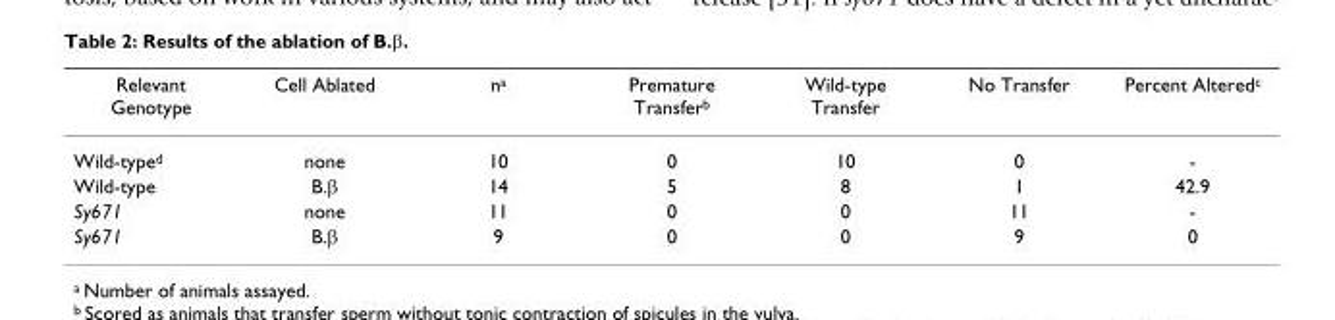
<table><thead><tr><td>Relevant Genotype</td><td>Cell Ablated</td><td>n<sup>a</sup></td><td>Premature Transfer<sup>b</sup></td><td>Wild-type Transfer</td><td>No Transfer</td><td>Percent Altered<sup>c</sup></td></tr></thead><tbody><tr><td>Wild-type<sup>d</sup></td><td>none</td><td>10</td><td>0</td><td>10</td><td>0</td><td>-</td></tr><tr><td>Wild-type</td><td>B.β</td><td>14</td><td>5</td><td>8</td><td>1</td><td>42.9</td></tr><tr><td>Sy671</td><td>none</td><td>11</td><td>0</td><td>0</td><td>11</td><td>-</td></tr><tr><td>Sy671</td><td>B.β</td><td>9</td><td>0</td><td>0</td><td>9</td><td>0</td></tr></tbody></table>